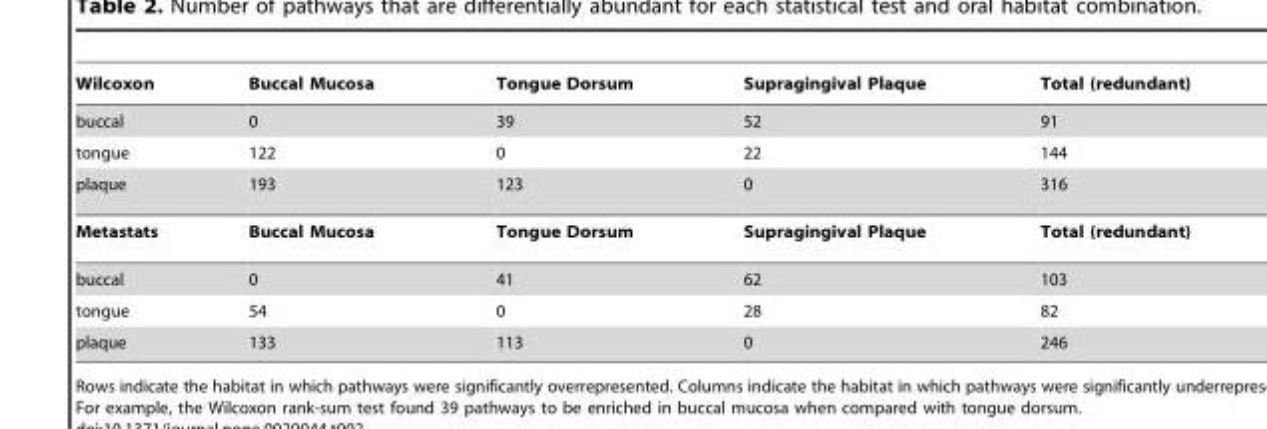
<table><thead><tr><td>Wilcoxon</td><td>Buccal Mucosa</td><td>Tongue Dorsum</td><td>Supragingival Plaque</td><td>Total (redundant)</td></tr></thead><tbody><tr><td>buccal</td><td>0</td><td>39</td><td>52</td><td>91</td></tr><tr><td>tongue</td><td>122</td><td>0</td><td>22</td><td>144</td></tr><tr><td>plaque</td><td>193</td><td>123</td><td>0</td><td>316</td></tr><tr><td>Metastats</td><td>Buccal Mucosa</td><td>Tongue Dorsum</td><td>Supragingival Plaque</td><td>Total (redundant)</td></tr><tr><td>buccal</td><td>0</td><td>41</td><td>62</td><td>103</td></tr><tr><td>tongue</td><td>54</td><td>0</td><td>28</td><td>82</td></tr><tr><td>plaque</td><td>133</td><td>113</td><td>0</td><td>246</td></tr></tbody></table>